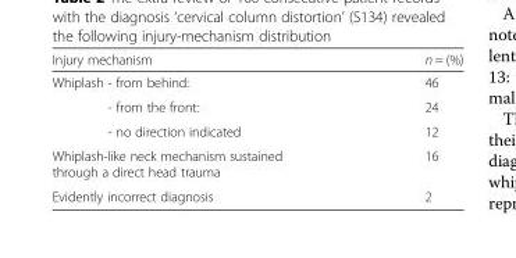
<table><thead><tr><td>Injury mechanism</td><td>n = (%)</td></tr></thead><tbody><tr><td>Whiplash - from behind:</td><td>46</td></tr><tr><td>- from the front:</td><td>24</td></tr><tr><td>- no direction indicated</td><td>12</td></tr><tr><td>Whiplash-like neck mechanism sustained through a direct head trauma</td><td>16</td></tr><tr><td>Evidently incorrect diagnosis</td><td>2</td></tr></tbody></table>